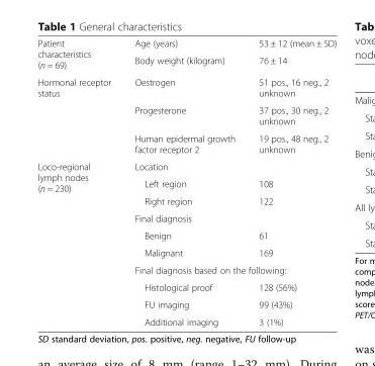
<table><tbody><tr><td rowspan="2">Patient characteristics (n = 69)</td><td>Age (years)</td><td>53 ± 12 (mean ± SD)</td></tr><tr><td>Body weight (kilogram)</td><td>76 ± 14</td></tr><tr><td rowspan="3">Hormonal receptor status</td><td>Oestrogen</td><td>51 pos., 16 neg., 2 unknown</td></tr><tr><td>Progesterone</td><td>37 pos., 30 neg., 2 unknown</td></tr><tr><td>Human epidermal growth factor receptor 2</td><td>19 pos., 48 neg., 2 unknown</td></tr><tr><td rowspan="10">Loco-regional lymph nodes (n = 230)</td><td colspan="2">Location</td></tr><tr><td>Left region</td><td>108</td></tr><tr><td>Right region</td><td>122</td></tr><tr><td colspan="2">Final diagnosis</td></tr><tr><td>Benign</td><td>61</td></tr><tr><td>Malignant</td><td>169</td></tr><tr><td colspan="2">Final diagnosis based on the following:</td></tr><tr><td>Histological proof</td><td>128 (56%)</td></tr><tr><td>FU imaging</td><td>99 (43%)</td></tr><tr><td>Additional imaging</td><td>3 (1%)</td></tr></tbody></table>